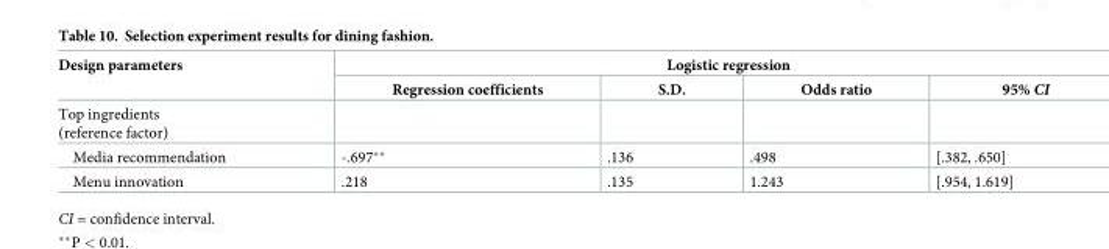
<table><thead><tr><td rowspan="2">Design parameters</td><td colspan="4">Logistic regression</td></tr><tr><td>Regression coefficients</td><td>S.D.</td><td>Odds ratio</td><td>95% CI</td></tr></thead><tbody><tr><td colspan="5">Top ingredients (reference factor)</td></tr><tr><td>Media recommendation</td><td>-.697**</td><td>.136</td><td>.498</td><td>[.382, .650]</td></tr><tr><td>Menu innovation</td><td>.218</td><td>.135</td><td>1.243</td><td>[.954, 1.619]</td></tr></tbody></table>